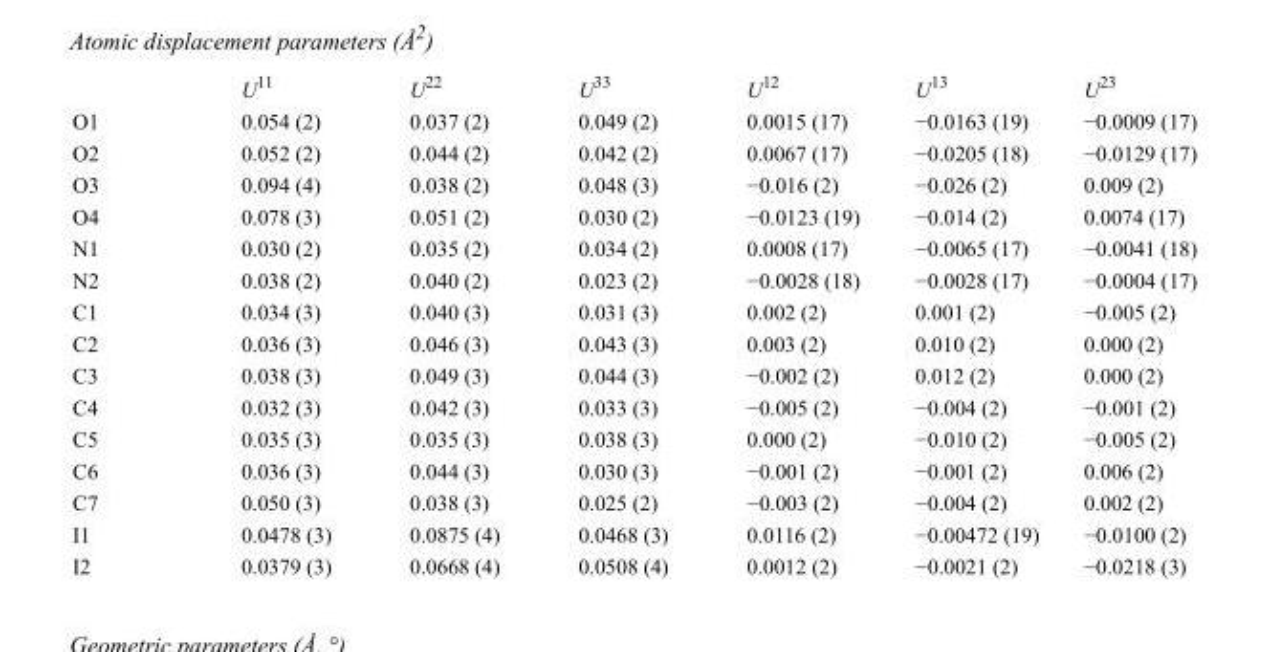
<table><thead><tr><td></td><td>U<sup>11</sup></td><td>U<sup>22</sup></td><td>U<sup>33</sup></td><td>U<sup>12</sup></td><td>U<sup>13</sup></td><td>U<sup>23</sup></td></tr></thead><tbody><tr><td>O1</td><td>0.054 (2)</td><td>0.037 (2)</td><td>0.049 (2)</td><td>0.0015 (17)</td><td>−0.0163 (19)</td><td>−0.0009 (17)</td></tr><tr><td>O2</td><td>0.052 (2)</td><td>0.044 (2)</td><td>0.042 (2)</td><td>0.0067 (17)</td><td>−0.0205 (18)</td><td>−0.0129 (17)</td></tr><tr><td>O3</td><td>0.094 (4)</td><td>0.038 (2)</td><td>0.048 (3)</td><td>−0.016 (2)</td><td>−0.026 (2)</td><td>0.009 (2)</td></tr><tr><td>O4</td><td>0.078 (3)</td><td>0.051 (2)</td><td>0.030 (2)</td><td>−0.0123 (19)</td><td>−0.014 (2)</td><td>0.0074 (17)</td></tr><tr><td>N1</td><td>0.030 (2)</td><td>0.035 (2)</td><td>0.034 (2)</td><td>0.0008 (17)</td><td>−0.0065 (17)</td><td>−0.0041 (18)</td></tr><tr><td>N2</td><td>0.038 (2)</td><td>0.040 (2)</td><td>0.023 (2)</td><td>−0.0028 (18)</td><td>−0.0028 (17)</td><td>−0.0004 (17)</td></tr><tr><td>C1</td><td>0.034 (3)</td><td>0.040 (3)</td><td>0.031 (3)</td><td>0.002 (2)</td><td>0.001 (2)</td><td>−0.005 (2)</td></tr><tr><td>C2</td><td>0.036 (3)</td><td>0.046 (3)</td><td>0.043 (3)</td><td>0.003 (2)</td><td>0.010 (2)</td><td>0.000 (2)</td></tr><tr><td>C3</td><td>0.038 (3)</td><td>0.049 (3)</td><td>0.044 (3)</td><td>−0.002 (2)</td><td>0.012 (2)</td><td>0.000 (2)</td></tr><tr><td>C4</td><td>0.032 (3)</td><td>0.042 (3)</td><td>0.033 (3)</td><td>−0.005 (2)</td><td>−0.004 (2)</td><td>−0.001 (2)</td></tr><tr><td>C5</td><td>0.035 (3)</td><td>0.035 (3)</td><td>0.038 (3)</td><td>0.000 (2)</td><td>−0.010 (2)</td><td>−0.005 (2)</td></tr><tr><td>C6</td><td>0.036 (3)</td><td>0.044 (3)</td><td>0.030 (3)</td><td>−0.001 (2)</td><td>−0.001 (2)</td><td>0.006 (2)</td></tr><tr><td>C7</td><td>0.050 (3)</td><td>0.038 (3)</td><td>0.025 (2)</td><td>−0.003 (2)</td><td>−0.004 (2)</td><td>0.002 (2)</td></tr><tr><td>I1</td><td>0.0478 (3)</td><td>0.0875 (4)</td><td>0.0468 (3)</td><td>0.0116 (2)</td><td>−0.00472 (19)</td><td>−0.0100 (2)</td></tr><tr><td>I2</td><td>0.0379 (3)</td><td>0.0668 (4)</td><td>0.0508 (4)</td><td>0.0012 (2)</td><td>−0.0021 (2)</td><td>−0.0218 (3)</td></tr></tbody></table>